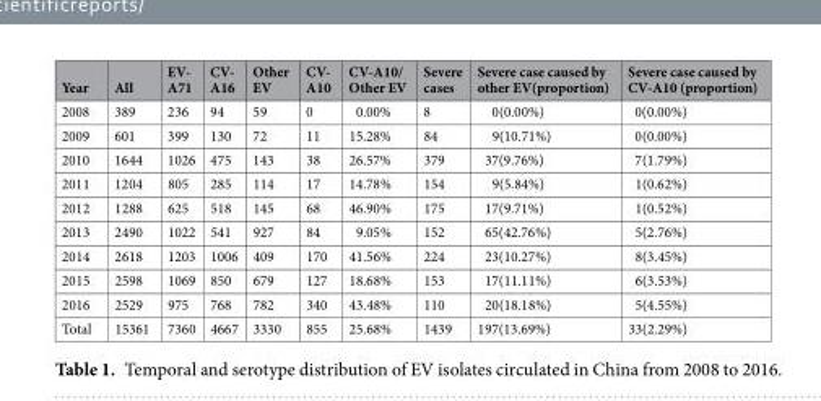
<table><thead><tr><td>Year</td><td>All</td><td>EV- A71</td><td>CV- A16</td><td>Other EV</td><td>CV- A10</td><td>CV-A10/ Other EV</td><td>Severe cases</td><td>Severe case caused by other EV(proportion)</td><td>Severe case caused by CV-A10 (proportion)</td></tr></thead><tbody><tr><td>2008</td><td>389</td><td>236</td><td>94</td><td>59</td><td>0</td><td>0.00%</td><td>8</td><td>0(0.00%)</td><td>0(0.00%)</td></tr><tr><td>2009</td><td>601</td><td>399</td><td>130</td><td>72</td><td>11</td><td>15.28%</td><td>84</td><td>9(10.71%)</td><td>0(0.00%)</td></tr><tr><td>2010</td><td>1644</td><td>1026</td><td>475</td><td>143</td><td>38</td><td>26.57%</td><td>379</td><td>37(9.76%)</td><td>7(1.79%)</td></tr><tr><td>2011</td><td>1204</td><td>805</td><td>285</td><td>114</td><td>17</td><td>14.78%</td><td>154</td><td>9(5.84%)</td><td>1(0.62%)</td></tr><tr><td>2012</td><td>1288</td><td>625</td><td>518</td><td>145</td><td>68</td><td>46.90%</td><td>175</td><td>17(9.71%)</td><td>1(0.52%)</td></tr><tr><td>2013</td><td>2490</td><td>1022</td><td>541</td><td>927</td><td>84</td><td>9.05%</td><td>152</td><td>65(42.76%)</td><td>5(2.76%)</td></tr><tr><td>2014</td><td>2618</td><td>1203</td><td>1006</td><td>409</td><td>170</td><td>41.56%</td><td>224</td><td>23(10.27%)</td><td>8(3.45%)</td></tr><tr><td>2015</td><td>2598</td><td>1069</td><td>850</td><td>679</td><td>127</td><td>18.68%</td><td>153</td><td>17(11.11%)</td><td>6(3.53%)</td></tr><tr><td>2016</td><td>2529</td><td>975</td><td>768</td><td>782</td><td>340</td><td>43.48%</td><td>110</td><td>20(18.18%)</td><td>5(4.55%)</td></tr><tr><td>Total</td><td>15361</td><td>7360</td><td>4667</td><td>3330</td><td>855</td><td>25.68%</td><td>1439</td><td>197(13.69%)</td><td>33(2.29%)</td></tr></tbody></table>